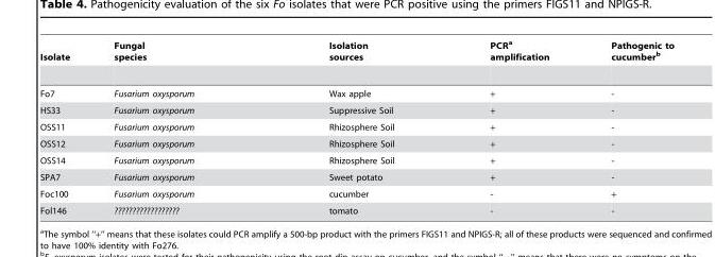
<table><thead><tr><td>Isolate</td><td>Fungal species</td><td>Isolation sources</td><td>PCR<sup>a</sup> amplification</td><td>Pathogenic to cucumber<sup>b</sup></td></tr></thead><tbody><tr><td>Fo7</td><td>Fusarium oxysporum</td><td>Wax apple</td><td>+</td><td>-</td></tr><tr><td>HS33</td><td>Fusarium oxysporum</td><td>Suppressive Soil</td><td>+</td><td>-</td></tr><tr><td>OSS11</td><td>Fusarium oxysporum</td><td>Rhizosphere Soil</td><td>+</td><td>-</td></tr><tr><td>OSS12</td><td>Fusarium oxysporum</td><td>Rhizosphere Soil</td><td>+</td><td>-</td></tr><tr><td>OSS14</td><td>Fusarium oxysporum</td><td>Rhizosphere Soil</td><td>+</td><td>-</td></tr><tr><td>SPA7</td><td>Fusarium oxysporum</td><td>Sweet potato</td><td>+</td><td>-</td></tr><tr><td>Foc100</td><td>Fusarium oxysporum</td><td>cucumber</td><td>-</td><td>+</td></tr><tr><td>Fol146</td><td>??????????????????</td><td>tomato</td><td>-</td><td>-</td></tr></tbody></table>